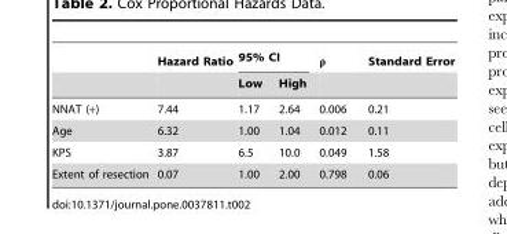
<table><thead><tr><td rowspan="2"></td><td rowspan="2">Hazard Ratio</td><td colspan="2">95% CI</td><td rowspan="2">ρ</td><td rowspan="2">Standard Error</td></tr><tr><td>Low</td><td>High</td></tr></thead><tbody><tr><td>NNAT (+)</td><td>7.44</td><td>1.17</td><td>2.64</td><td>0.006</td><td>0.21</td></tr><tr><td>Age</td><td>6.32</td><td>1.00</td><td>1.04</td><td>0.012</td><td>0.11</td></tr><tr><td>KPS</td><td>3.87</td><td>6.5</td><td>10.0</td><td>0.049</td><td>1.58</td></tr><tr><td>Extent of resection</td><td>0.07</td><td>1.00</td><td>2.00</td><td>0.798</td><td>0.06</td></tr></tbody></table>